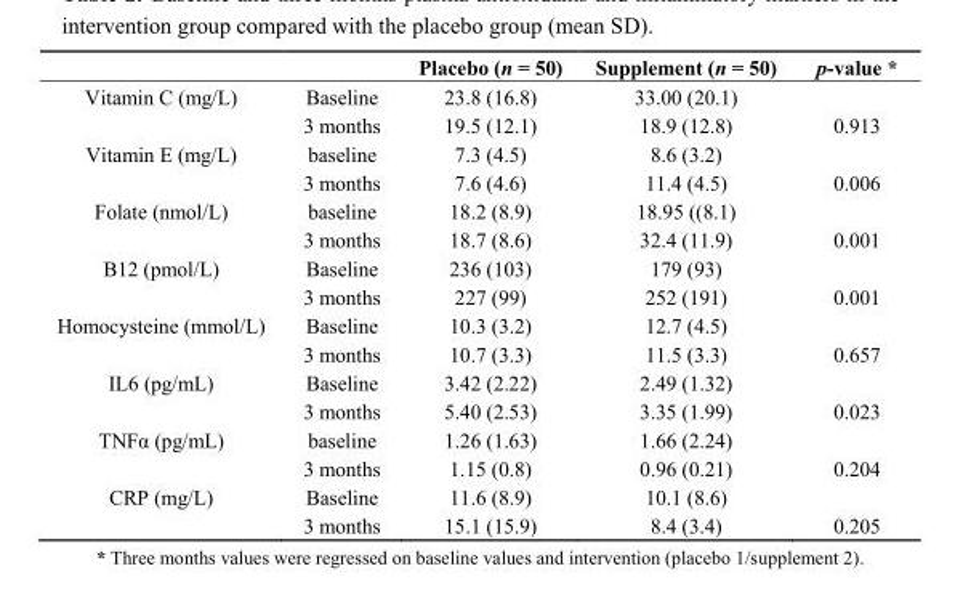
<table><thead><tr><td></td><td></td><td>Placebo (n = 50)</td><td>Supplement (n = 50)</td><td>p-value *</td></tr></thead><tbody><tr><td rowspan="2">Vitamin C (mg/L)</td><td>Baseline</td><td>23.8 (16.8)</td><td>33.00 (20.1)</td><td></td></tr><tr><td>3 months</td><td>19.5 (12.1)</td><td>18.9 (12.8)</td><td>0.913</td></tr><tr><td rowspan="2">Vitamin E (mg/L)</td><td>baseline</td><td>7.3 (4.5)</td><td>8.6 (3.2)</td><td></td></tr><tr><td>3 months</td><td>7.6 (4.6)</td><td>11.4 (4.5)</td><td>0.006</td></tr><tr><td rowspan="2">Folate (nmol/L)</td><td>baseline</td><td>18.2 (8.9)</td><td>18.95 ((8.1)</td><td></td></tr><tr><td>3 months</td><td>18.7 (8.6)</td><td>32.4 (11.9)</td><td>0.001</td></tr><tr><td rowspan="2">B12 (pmol/L)</td><td>Baseline</td><td>236 (103)</td><td>179 (93)</td><td></td></tr><tr><td>3 months</td><td>227 (99)</td><td>252 (191)</td><td>0.001</td></tr><tr><td rowspan="2">Homocysteine (mmol/L)</td><td>Baseline</td><td>10.3 (3.2)</td><td>12.7 (4.5)</td><td></td></tr><tr><td>3 months</td><td>10.7 (3.3)</td><td>11.5 (3.3)</td><td>0.657</td></tr><tr><td rowspan="2">IL6 (pg/mL)</td><td>Baseline</td><td>3.42 (2.22)</td><td>2.49 (1.32)</td><td></td></tr><tr><td>3 months</td><td>5.40 (2.53)</td><td>3.35 (1.99)</td><td>0.023</td></tr><tr><td rowspan="2">TNFα (pg/mL)</td><td>baseline</td><td>1.26 (1.63)</td><td>1.66 (2.24)</td><td></td></tr><tr><td>3 months</td><td>1.15 (0.8)</td><td>0.96 (0.21)</td><td>0.204</td></tr><tr><td rowspan="2">CRP (mg/L)</td><td>Baseline</td><td>11.6 (8.9)</td><td>10.1 (8.6)</td><td></td></tr><tr><td>3 months</td><td>15.1 (15.9)</td><td>8.4 (3.4)</td><td>0.205</td></tr></tbody></table>